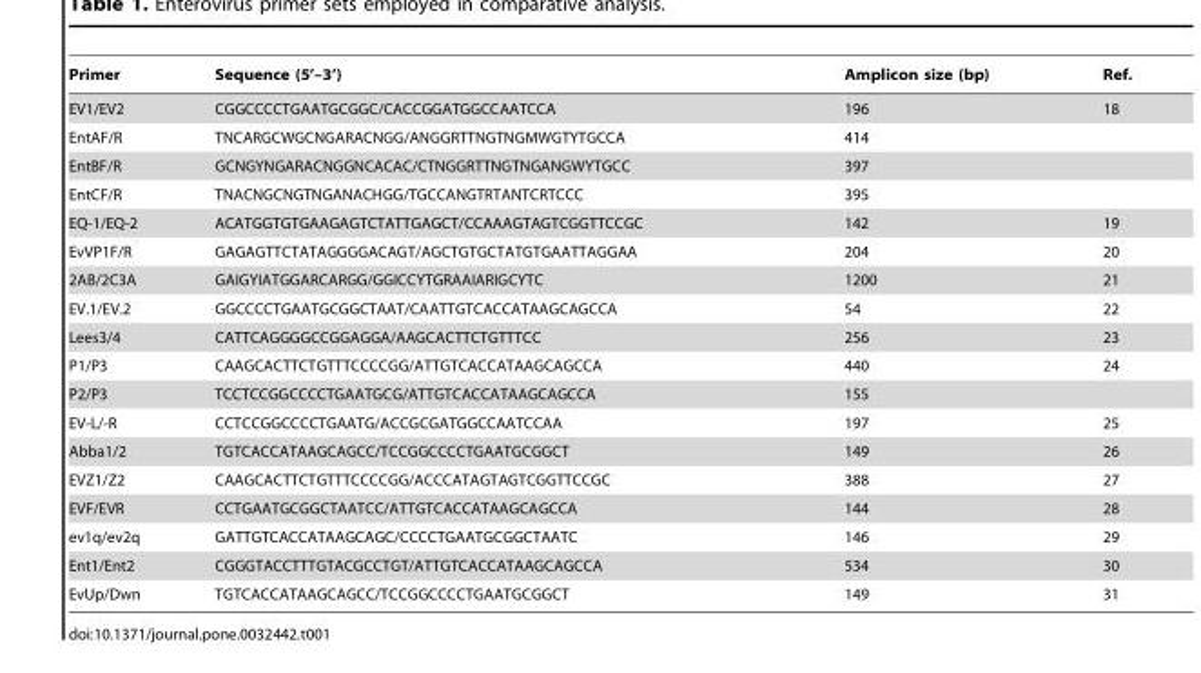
<table><thead><tr><td>Primer</td><td>Sequence (5’–3’)</td><td>Amplicon size (bp)</td><td>Ref.</td></tr></thead><tbody><tr><td>EV1/EV2</td><td>CGGCCCCTGAATGCGGC/CACCGGATGGCCAATCCA</td><td>196</td><td>18</td></tr><tr><td>EntAF/R</td><td>TNCARGCWGCNGARACNGG/ANGGRTTNGTNGMWGTYTGCCA</td><td>414</td><td></td></tr><tr><td>EntBF/R</td><td>GCNGYNGARACNGGNCACAC/CTNGGRTTNGTNGANGWYTGCC</td><td>397</td><td></td></tr><tr><td>EntCF/R</td><td>TNACNGCNGTNGANACHGG/TGCCANGTRTANTCRTCCC</td><td>395</td><td></td></tr><tr><td>EQ-1/EQ-2</td><td>ACATGGTGTGAAGAGTCTATTGAGCT/CCAAAGTAGTCGGTTCCGC</td><td>142</td><td>19</td></tr><tr><td>EvVP1F/R</td><td>GAGAGTTCTATAGGGGACAGT/AGCTGTGCTATGTGAATTAGGAA</td><td>204</td><td>20</td></tr><tr><td>2AB/2C3A</td><td>GAIGYIATGGARCARGG/GGICCYTGRAAIARIGCYTC</td><td>1200</td><td>21</td></tr><tr><td>EV.1/EV.2</td><td>GGCCCCTGAATGCGGCTAAT/CAATTGTCACCATAAGCAGCCA</td><td>54</td><td>22</td></tr><tr><td>Lees3/4</td><td>CATTCAGGGGCCGGAGGA/AAGCACTTCTGTTTCC</td><td>256</td><td>23</td></tr><tr><td>P1/P3</td><td>CAAGCACTTCTGTTTCCCCGG/ATTGTCACCATAAGCAGCCA</td><td>440</td><td>24</td></tr><tr><td>P2/P3</td><td>TCCTCCGGCCCCTGAATGCG/ATTGTCACCATAAGCAGCCA</td><td>155</td><td></td></tr><tr><td>EV-L/-R</td><td>CCTCCGGCCCCTGAATG/ACCGCGATGGCCAATCCAA</td><td>197</td><td>25</td></tr><tr><td>Abba1/2</td><td>TGTCACCATAAGCAGCC/TCCGGCCCCTGAATGCGGCT</td><td>149</td><td>26</td></tr><tr><td>EVZ1/Z2</td><td>CAAGCACTTCTGTTTCCCCGG/ACCCATAGTAGTCGGTTCCGC</td><td>388</td><td>27</td></tr><tr><td>EVF/EVR</td><td>CCTGAATGCGGCTAATCC/ATTGTCACCATAAGCAGCCA</td><td>144</td><td>28</td></tr><tr><td>ev1q/ev2q</td><td>GATTGTCACCATAAGCAGC/CCCCTGAATGCGGCTAATC</td><td>146</td><td>29</td></tr><tr><td>Ent1/Ent2</td><td>CGGGTACCTTTGTACGCCTGT/ATTGTCACCATAAGCAGCCA</td><td>534</td><td>30</td></tr><tr><td>EvUp/Dwn</td><td>TGTCACCATAAGCAGCC/TCCGGCCCCTGAATGCGGCT</td><td>149</td><td>31</td></tr></tbody></table>